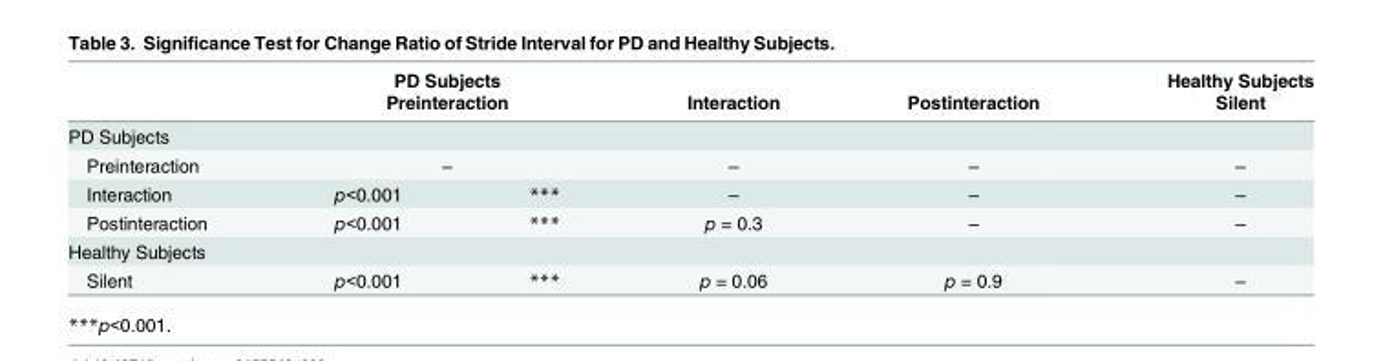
<table><thead><tr><td rowspan="5">PD Subjects Preinteraction Interaction</td><td rowspan="4" colspan="2">PD Subjects Preinteraction –</td><td rowspan="5">Interaction – –</td><td rowspan="5">Postinteraction – –</td><td rowspan="5">Healthy Subjects Silent – –</td></tr><tr></tr><tr></tr><tr></tr><tr><td>p&lt;0.001</td><td>***</td></tr></thead><tbody><tr><td>Postinteraction</td><td>p&lt;0.001</td><td>***</td><td>p = 0.3</td><td>–</td><td>–</td></tr><tr><td colspan="6">Healthy Subjects</td></tr><tr><td>Silent</td><td>p&lt;0.001</td><td>***</td><td>p = 0.06</td><td>p = 0.9</td><td>–</td></tr></tbody></table>